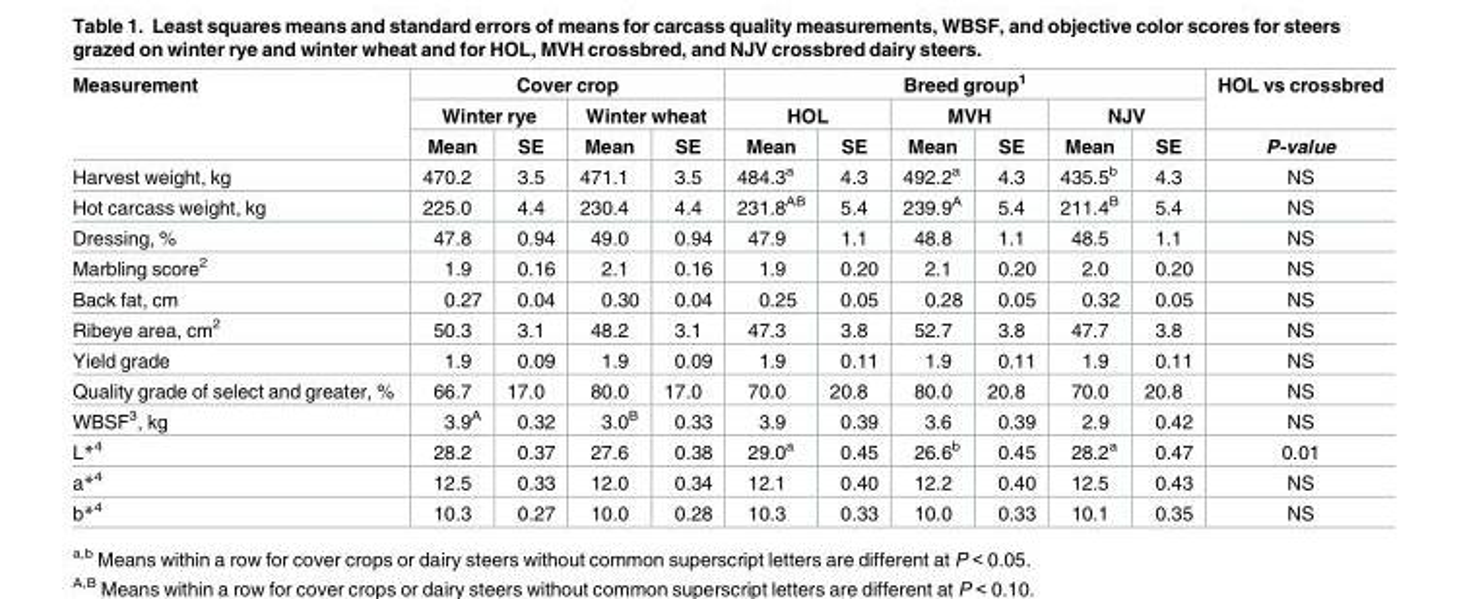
<table><thead><tr><td rowspan="3">Measurement</td><td colspan="4">Cover crop</td><td colspan="6">Breed group<sup>1</sup></td><td rowspan="3">HOL vs crossbred P-value</td></tr><tr><td colspan="2">Winter rye</td><td colspan="2">Winter wheat</td><td colspan="2">HOL</td><td colspan="2">MVH</td><td colspan="2">NJV</td></tr><tr><td>Mean</td><td>SE</td><td>Mean</td><td>SE</td><td>Mean</td><td>SE</td><td>Mean</td><td>SE</td><td>Mean</td><td>SE</td></tr></thead><tbody><tr><td>Harvest weight, kg</td><td>470.2</td><td>3.5</td><td>471.1</td><td>3.5</td><td>484.3<sup>a</sup></td><td>4.3</td><td>492.2<sup>a</sup></td><td>4.3</td><td>435.5<sup>b</sup></td><td>4.3</td><td>NS</td></tr><tr><td>Hot carcass weight, kg</td><td>225.0</td><td>4.4</td><td>230.4</td><td>4.4</td><td>231.8<sup>AB</sup></td><td>5.4</td><td>239.9<sup>A</sup></td><td>5.4</td><td>211.4<sup>B</sup></td><td>5.4</td><td>NS</td></tr><tr><td>Dressing, %</td><td>47.8</td><td>0.94</td><td>49.0</td><td>0.94</td><td>47.9</td><td>1.1</td><td>48.8</td><td>1.1</td><td>48.5</td><td>1.1</td><td>NS</td></tr><tr><td>Marbling score<sup>2</sup></td><td>1.9</td><td>0.16</td><td>2.1</td><td>0.16</td><td>1.9</td><td>0.20</td><td>2.1</td><td>0.20</td><td>2.0</td><td>0.20</td><td>NS</td></tr><tr><td>Back fat, cm</td><td>0.27</td><td>0.04</td><td>0.30</td><td>0.04</td><td>0.25</td><td>0.05</td><td>0.28</td><td>0.05</td><td>0.32</td><td>0.05</td><td>NS</td></tr><tr><td>Ribeye area, cm<sup>2</sup></td><td>50.3</td><td>3.1</td><td>48.2</td><td>3.1</td><td>47.3</td><td>3.8</td><td>52.7</td><td>3.8</td><td>47.7</td><td>3.8</td><td>NS</td></tr><tr><td>Yield grade</td><td>1.9</td><td>0.09</td><td>1.9</td><td>0.09</td><td>1.9</td><td>0.11</td><td>1.9</td><td>0.11</td><td>1.9</td><td>0.11</td><td>NS</td></tr><tr><td>Quality grade of select and greater, %</td><td>66.7</td><td>17.0</td><td>80.0</td><td>17.0</td><td>70.0</td><td>20.8</td><td>80.0</td><td>20.8</td><td>70.0</td><td>20.8</td><td>NS</td></tr><tr><td>WBSF<sup>3</sup>, kg</td><td>3.9<sup>A</sup></td><td>0.32</td><td>3.0<sup>B</sup></td><td>0.33</td><td>3.9</td><td>0.39</td><td>3.6</td><td>0.39</td><td>2.9</td><td>0.42</td><td>NS</td></tr><tr><td>L*<sup>4</sup></td><td>28.2</td><td>0.37</td><td>27.6</td><td>0.38</td><td>29.0<sup>a</sup></td><td>0.45</td><td>26.6<sup>b</sup></td><td>0.45</td><td>28.2<sup>a</sup></td><td>0.47</td><td>0.01</td></tr><tr><td>a*<sup>4</sup></td><td>12.5</td><td>0.33</td><td>12.0</td><td>0.34</td><td>12.1</td><td>0.40</td><td>12.2</td><td>0.40</td><td>12.5</td><td>0.43</td><td>NS</td></tr><tr><td>b*<sup>4</sup></td><td>10.3</td><td>0.27</td><td>10.0</td><td>0.28</td><td>10.3</td><td>0.33</td><td>10.0</td><td>0.33</td><td>10.1</td><td>0.35</td><td>NS</td></tr></tbody></table>